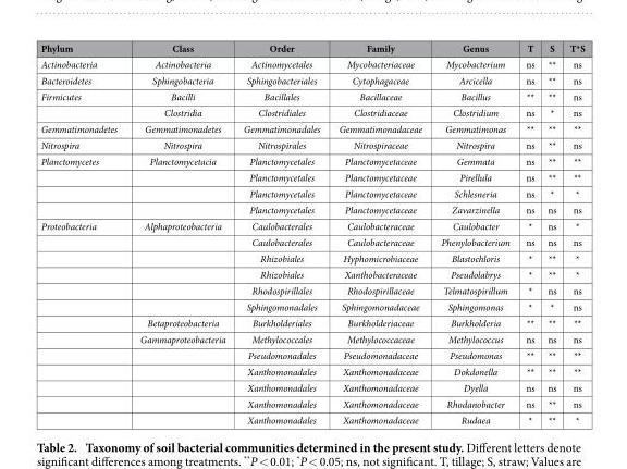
<table><thead><tr><td>Phylum</td><td>Class</td><td>Order</td><td>Family</td><td>Genus</td><td>T</td><td>S</td><td>T*S</td></tr></thead><tbody><tr><td>Actinobacteria</td><td>Actinobacteria</td><td>Actinomycetales</td><td>Mycobacteriaceae</td><td>Mycobacterium</td><td>ns</td><td>**</td><td>ns</td></tr><tr><td>Bacteroidetes</td><td>Sphingobacteria</td><td>Sphingobacteriales</td><td>Cytophagaceae</td><td>Arcicella</td><td>ns</td><td>**</td><td>ns</td></tr><tr><td rowspan="2">Firmicutes</td><td>Bacilli</td><td>Bacillales</td><td>Bacillaceae</td><td>Bacillus</td><td>**</td><td>**</td><td>ns</td></tr><tr><td>Clostridia</td><td>Clostridiales</td><td>Clostridiaceae</td><td>Clostridium</td><td>ns</td><td>*</td><td>ns</td></tr><tr><td>Gemmatimonadetes</td><td>Gemmatimonadetes</td><td>Gemmatimonadales</td><td>Gemmatimonadaceae</td><td>Gemmatimonas</td><td>**</td><td>**</td><td>**</td></tr><tr><td>Nitrospira</td><td>Nitrospira</td><td>Nitrospirales</td><td>Nitrospiraceae</td><td>Nitrospira</td><td>ns</td><td>**</td><td>ns</td></tr><tr><td rowspan="4">Planctomycetes</td><td>Planctomycetacia</td><td>Planctomycetales</td><td>Planctomycetaceae</td><td>Gemmata</td><td>ns</td><td>**</td><td>**</td></tr><tr><td></td><td>Planctomycetales</td><td>Planctomycetaceae</td><td>Pirellula</td><td>ns</td><td>**</td><td>**</td></tr><tr><td></td><td>Planctomycetales</td><td>Planctomycetaceae</td><td>Schlesneria</td><td>ns</td><td>*</td><td>*</td></tr><tr><td></td><td>Planctomycetales</td><td>Planctomycetaceae</td><td>Zavarzinella</td><td>ns</td><td>ns</td><td>ns</td></tr><tr><td rowspan="13">Proteobacteria</td><td>Alphaproteobacteria</td><td>Caulobacterales</td><td>Caulobacteraceae</td><td>Caulobacter</td><td>*</td><td>ns</td><td>*</td></tr><tr><td></td><td>Caulobacterales</td><td>Caulobacteraceae</td><td>Phenylobacterium</td><td>ns</td><td>ns</td><td>ns</td></tr><tr><td></td><td>Rhizobiales</td><td>Hyphomicrobiaceae</td><td>Blastochloris</td><td>*</td><td>**</td><td>*</td></tr><tr><td></td><td>Rhizobiales</td><td>Xanthobacteraceae</td><td>Pseudolabrys</td><td>*</td><td>**</td><td>*</td></tr><tr><td></td><td>Rhodospirillales</td><td>Rhodospirillaceae</td><td>Telmatospirillum</td><td>*</td><td>ns</td><td>ns</td></tr><tr><td></td><td>Sphingomonadales</td><td>Sphingomonadaceae</td><td>Sphingomonas</td><td>*</td><td>*</td><td>ns</td></tr><tr><td>Betaproteobacteria</td><td>Burkholderiales</td><td>Burkholderiaceae</td><td>Burkholderia</td><td>**</td><td>**</td><td>**</td></tr><tr><td>Gammaproteobacteria</td><td>Methylococcales</td><td>Methylococcaceae</td><td>Methylococcus</td><td>ns</td><td>ns</td><td>ns</td></tr><tr><td></td><td>Pseudomonadales</td><td>Pseudomonadaceae</td><td>Pseudomonas</td><td>**</td><td>**</td><td>**</td></tr><tr><td></td><td>Xanthomonadales</td><td>Xanthomonadaceae</td><td>Dokdonella</td><td>**</td><td>**</td><td>**</td></tr><tr><td></td><td>Xanthomonadales</td><td>Xanthomonadaceae</td><td>Dyella</td><td>ns</td><td>ns</td><td>ns</td></tr><tr><td></td><td>Xanthomonadales</td><td>Xanthomonadaceae</td><td>Rhodanobacter</td><td>ns</td><td>**</td><td>ns</td></tr><tr><td></td><td>Xanthomonadales</td><td>Xanthomonadaceae</td><td>Rudaea</td><td>*</td><td>**</td><td>*</td></tr></tbody></table>